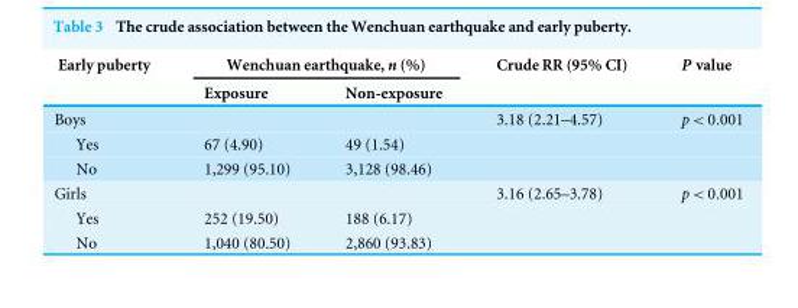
<table><thead><tr><td rowspan="2">Early puberty</td><td colspan="2">Wenchuan earthquake, n (%)</td><td rowspan="2">Crude RR (95% CI)</td><td rowspan="2">P value</td></tr><tr><td>Exposure</td><td>Non-exposure</td></tr></thead><tbody><tr><td>Boys</td><td></td><td></td><td>3.18 (2.21–4.57)</td><td>p &lt; 0.001</td></tr><tr><td>Yes</td><td>67 (4.90)</td><td>49 (1.54)</td><td></td><td></td></tr><tr><td>No</td><td>1,299 (95.10)</td><td>3,128 (98.46)</td><td></td><td></td></tr><tr><td>Girls</td><td></td><td></td><td>3.16 (2.65–3.78)</td><td>p &lt; 0.001</td></tr><tr><td>Yes</td><td>252 (19.50)</td><td>188 (6.17)</td><td></td><td></td></tr><tr><td>No</td><td>1,040 (80.50)</td><td>2,860 (93.83)</td><td></td><td></td></tr></tbody></table>